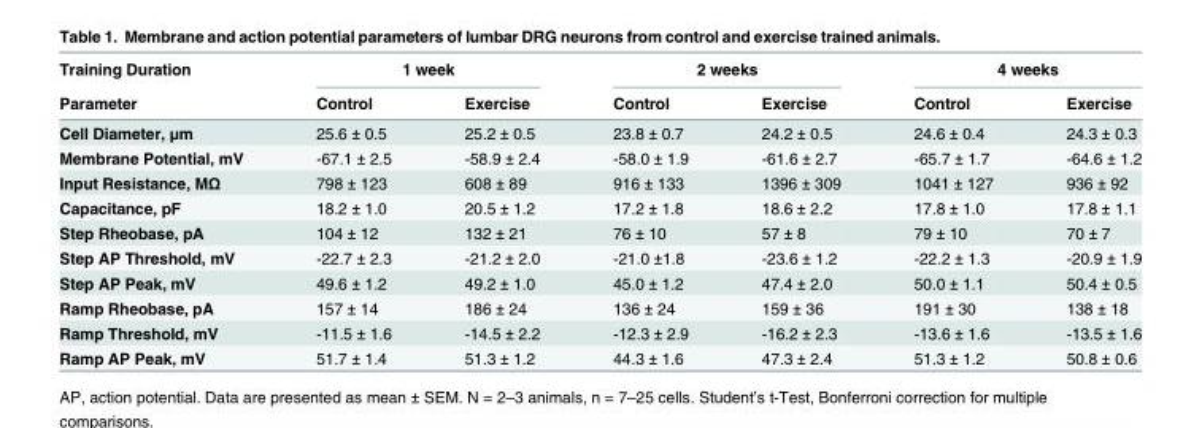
<table><thead><tr><td rowspan="2">Training Duration Parameter</td><td colspan="2">1 week</td><td colspan="2">2 weeks</td><td colspan="2">4 weeks</td></tr><tr><td>Control</td><td>Exercise</td><td>Control</td><td>Exercise</td><td>Control</td><td>Exercise</td></tr></thead><tbody><tr><td>Cell Diameter, μm</td><td>25.6 ± 0.5</td><td>25.2 ± 0.5</td><td>23.8 ± 0.7</td><td>24.2 ± 0.5</td><td>24.6 ± 0.4</td><td>24.3 ± 0.3</td></tr><tr><td>Membrane Potential, mV</td><td>-67.1 ± 2.5</td><td>-58.9 ± 2.4</td><td>-58.0 ± 1.9</td><td>-61.6 ± 2.7</td><td>-65.7 ± 1.7</td><td>-64.6 ± 1.2</td></tr><tr><td>Input Resistance, MΩ</td><td>798 ± 123</td><td>608 ± 89</td><td>916 ± 133</td><td>1396 ± 309</td><td>1041 ± 127</td><td>936 ± 92</td></tr><tr><td>Capacitance, pF</td><td>18.2 ± 1.0</td><td>20.5 ± 1.2</td><td>17.2 ± 1.8</td><td>18.6 ± 2.2</td><td>17.8 ± 1.0</td><td>17.8 ± 1.1</td></tr><tr><td>Step Rheobase, pA</td><td>104 ± 12</td><td>132 ± 21</td><td>76 ± 10</td><td>57 ± 8</td><td>79 ± 10</td><td>70 ± 7</td></tr><tr><td>Step AP Threshold, mV</td><td>-22.7 ± 2.3</td><td>-21.2 ± 2.0</td><td>-21.0 ±1.8</td><td>-23.6 ± 1.2</td><td>-22.2 ± 1.3</td><td>-20.9 ± 1.9</td></tr><tr><td>Step AP Peak, mV</td><td>49.6 ± 1.2</td><td>49.2 ± 1.0</td><td>45.0 ± 1.2</td><td>47.4 ± 2.0</td><td>50.0 ± 1.1</td><td>50.4 ± 0.5</td></tr><tr><td>Ramp Rheobase, pA</td><td>157 ± 14</td><td>186 ± 24</td><td>136 ± 24</td><td>159 ± 36</td><td>191 ± 30</td><td>138 ± 18</td></tr><tr><td>Ramp Threshold, mV</td><td>-11.5 ± 1.6</td><td>-14.5 ± 2.2</td><td>-12.3 ± 2.9</td><td>-16.2 ± 2.3</td><td>-13.6 ± 1.6</td><td>-13.5 ± 1.6</td></tr><tr><td>Ramp AP Peak, mV</td><td>51.7 ± 1.4</td><td>51.3 ± 1.2</td><td>44.3 ± 1.6</td><td>47.3 ± 2.4</td><td>51.3 ± 1.2</td><td>50.8 ± 0.6</td></tr></tbody></table>